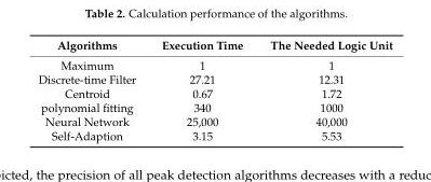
<table><thead><tr><td>Algorithms</td><td>Execution Time</td><td>The Needed Logic Unit</td></tr></thead><tbody><tr><td>Maximum</td><td>1</td><td>1</td></tr><tr><td>Discrete-time Filter</td><td>27.21</td><td>12.31</td></tr><tr><td>Centroid</td><td>0.67</td><td>1.72</td></tr><tr><td>polynomial fitting</td><td>340</td><td>1000</td></tr><tr><td>Neural Network</td><td>25,000</td><td>40,000</td></tr><tr><td>Self-Adaption</td><td>3.15</td><td>5.53</td></tr></tbody></table>